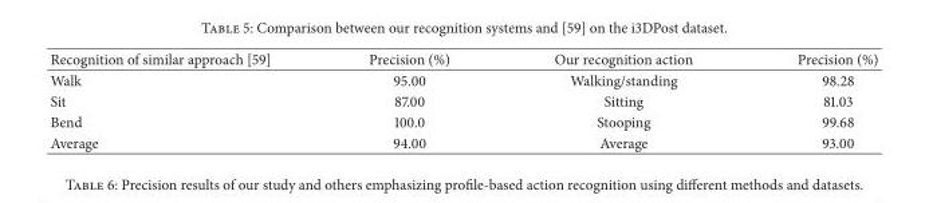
<table><thead><tr><td>Recognition of similar approach [59]</td><td>Precision (%)</td><td>Our recognition action</td><td>Precision (%)</td></tr></thead><tbody><tr><td>Walk</td><td>95.00</td><td>Walking/standing</td><td>98.28</td></tr><tr><td>Sit</td><td>87.00</td><td>Sitting</td><td>81.03</td></tr><tr><td>Bend</td><td>100.0</td><td>Stooping</td><td>99.68</td></tr><tr><td>Average</td><td>94.00</td><td>Average</td><td>93.00</td></tr></tbody></table>